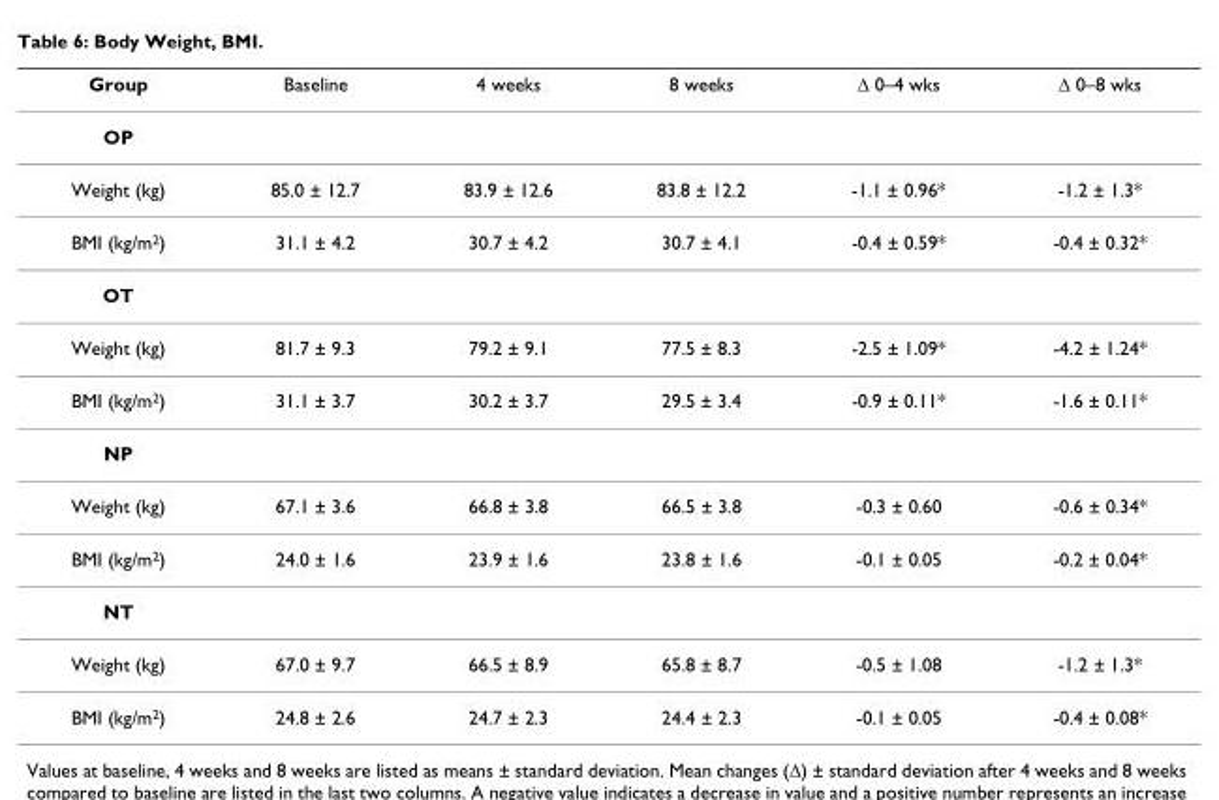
<table><thead><tr><td>Group</td><td>Baseline</td><td>4 weeks</td><td>8 weeks</td><td>Δ 0–4 wks</td><td>Δ 0–8 wks</td></tr></thead><tbody><tr><td colspan="6">OP</td></tr><tr><td>Weight (kg)</td><td>85.0 ± 12.7</td><td>83.9 ± 12.6</td><td>83.8 ± 12.2</td><td>-1.1 ± 0.96*</td><td>-1.2 ± 1.3*</td></tr><tr><td>BMI (kg/m2)</td><td>31.1 ± 4.2</td><td>30.7 ± 4.2</td><td>30.7 ± 4.1</td><td>-0.4 ± 0.59*</td><td>-0.4 ± 0.32*</td></tr><tr><td colspan="6">OT</td></tr><tr><td>Weight (kg)</td><td>81.7 ± 9.3</td><td>79.2 ± 9.1</td><td>77.5 ± 8.3</td><td>-2.5 ± 1.09*</td><td>-4.2 ± 1.24*</td></tr><tr><td>BMI (kg/m2)</td><td>31.1 ± 3.7</td><td>30.2 ± 3.7</td><td>29.5 ± 3.4</td><td>-0.9 ± 0.11*</td><td>-1.6 ± 0.11*</td></tr><tr><td colspan="6">NP</td></tr><tr><td>Weight (kg)</td><td>67.1 ± 3.6</td><td>66.8 ± 3.8</td><td>66.5 ± 3.8</td><td>-0.3 ± 0.60</td><td>-0.6 ± 0.34*</td></tr><tr><td>BMI (kg/m2)</td><td>24.0 ± 1.6</td><td>23.9 ± 1.6</td><td>23.8 ± 1.6</td><td>-0.1 ± 0.05</td><td>-0.2 ± 0.04*</td></tr><tr><td colspan="6">NT</td></tr><tr><td>Weight (kg)</td><td>67.0 ± 9.7</td><td>66.5 ± 8.9</td><td>65.8 ± 8.7</td><td>-0.5 ± 1.08</td><td>-1.2 ± 1.3*</td></tr><tr><td>BMI (kg/m2)</td><td>24.8 ± 2.6</td><td>24.7 ± 2.3</td><td>24.4 ± 2.3</td><td>-0.1 ± 0.05</td><td>-0.4 ± 0.08*</td></tr></tbody></table>